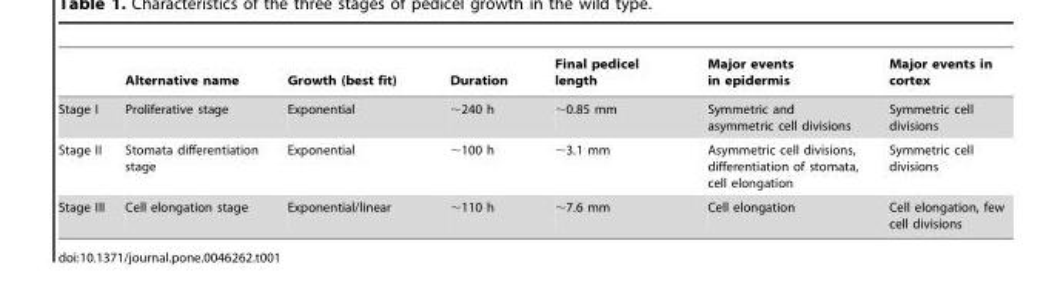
<table><thead><tr><td></td><td>Alternative name</td><td>Growth (best fit)</td><td>Duration</td><td>Final pedicel length</td><td>Major events in epidermis</td><td>Major events in cortex</td></tr></thead><tbody><tr><td>Stage I</td><td>Proliferative stage</td><td>Exponential</td><td>∼240 h</td><td>∼0.85 mm</td><td>Symmetric and asymmetric cell divisions</td><td>Symmetric cell divisions</td></tr><tr><td>Stage II</td><td>Stomata differentiation stage</td><td>Exponential</td><td>∼100 h</td><td>∼3.1 mm</td><td>Asymmetric cell divisions, differentiation of stomata, cell elongation</td><td>Symmetric cell divisions</td></tr><tr><td>Stage III</td><td>Cell elongation stage</td><td>Exponential/linear</td><td>∼110 h</td><td>∼7.6 mm</td><td>Cell elongation</td><td>Cell elongation, few cell divisions</td></tr></tbody></table>